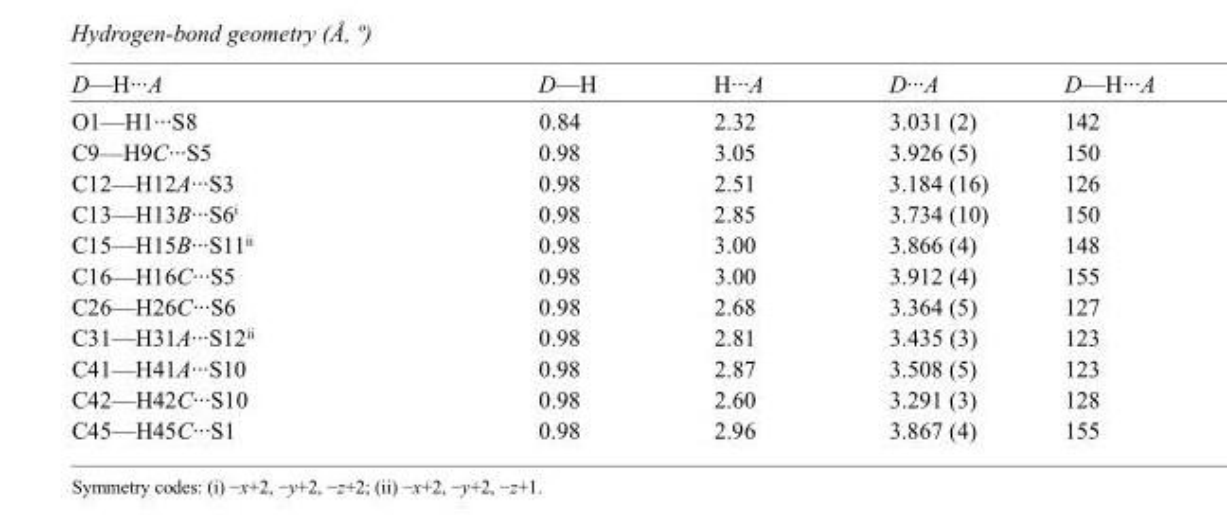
<table><tbody><tr><td>D—H···A</td><td>D—H</td><td>H···A</td><td>D···A</td><td>D—H···A</td></tr><tr><td>O1—H1···S8</td><td>0.84</td><td>2.32</td><td>3.031 (2)</td><td>142</td></tr><tr><td>C9—H9C···S5</td><td>0.98</td><td>3.05</td><td>3.926 (5)</td><td>150</td></tr><tr><td>C12—H12A···S3</td><td>0.98</td><td>2.51</td><td>3.184 (16)</td><td>126</td></tr><tr><td>C13—H13B···S6<sup>i</sup></td><td>0.98</td><td>2.85</td><td>3.734 (10)</td><td>150</td></tr><tr><td>C15—H15B···S11<sup>ii</sup></td><td>0.98</td><td>3.00</td><td>3.866 (4)</td><td>148</td></tr><tr><td>C16—H16C···S5</td><td>0.98</td><td>3.00</td><td>3.912 (4)</td><td>155</td></tr><tr><td>C26—H26C···S6</td><td>0.98</td><td>2.68</td><td>3.364 (5)</td><td>127</td></tr><tr><td>C31—H31A···S12<sup>ii</sup></td><td>0.98</td><td>2.81</td><td>3.435 (3)</td><td>123</td></tr><tr><td>C41—H41A···S10</td><td>0.98</td><td>2.87</td><td>3.508 (5)</td><td>123</td></tr><tr><td>C42—H42C···S10</td><td>0.98</td><td>2.60</td><td>3.291 (3)</td><td>128</td></tr><tr><td>C45—H45C···S1</td><td>0.98</td><td>2.96</td><td>3.867 (4)</td><td>155</td></tr></tbody></table>